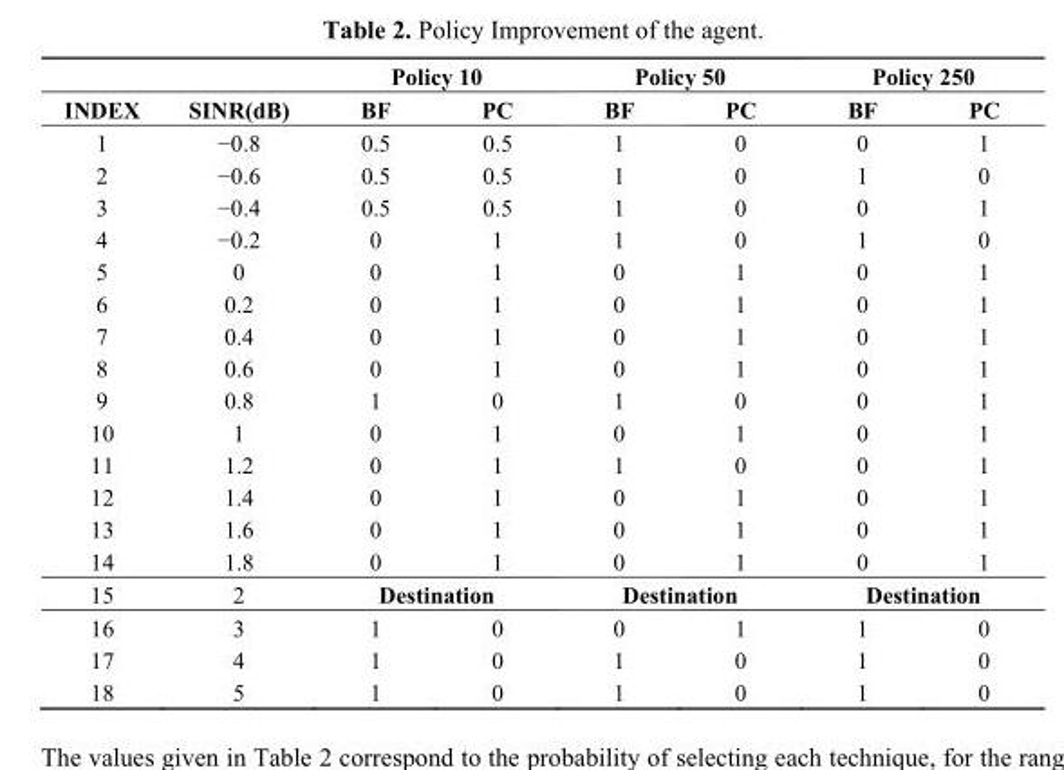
<table><thead><tr><td rowspan="2">INDEX</td><td rowspan="2">SINR(dB)</td><td colspan="2">Policy 10</td><td colspan="2">Policy 50</td><td colspan="2">Policy 250</td></tr><tr><td>BF</td><td>PC</td><td>BF</td><td>PC</td><td>BF</td><td>PC</td></tr></thead><tbody><tr><td>1</td><td>−0.8</td><td>0.5</td><td>0.5</td><td>1</td><td>0</td><td>0</td><td>1</td></tr><tr><td>2</td><td>−0.6</td><td>0.5</td><td>0.5</td><td>1</td><td>0</td><td>1</td><td>0</td></tr><tr><td>3</td><td>−0.4</td><td>0.5</td><td>0.5</td><td>1</td><td>0</td><td>0</td><td>1</td></tr><tr><td>4</td><td>−0.2</td><td>0</td><td>1</td><td>1</td><td>0</td><td>1</td><td>0</td></tr><tr><td>5</td><td>0</td><td>0</td><td>1</td><td>0</td><td>1</td><td>0</td><td>1</td></tr><tr><td>6</td><td>0.2</td><td>0</td><td>1</td><td>0</td><td>1</td><td>0</td><td>1</td></tr><tr><td>7</td><td>0.4</td><td>0</td><td>1</td><td>0</td><td>1</td><td>0</td><td>1</td></tr><tr><td>8</td><td>0.6</td><td>0</td><td>1</td><td>0</td><td>1</td><td>0</td><td>1</td></tr><tr><td>9</td><td>0.8</td><td>1</td><td>0</td><td>1</td><td>0</td><td>0</td><td>1</td></tr><tr><td>10</td><td>1</td><td>0</td><td>1</td><td>0</td><td>1</td><td>0</td><td>1</td></tr><tr><td>11</td><td>1.2</td><td>0</td><td>1</td><td>1</td><td>0</td><td>0</td><td>1</td></tr><tr><td>12</td><td>1.4</td><td>0</td><td>1</td><td>0</td><td>1</td><td>0</td><td>1</td></tr><tr><td>13</td><td>1.6</td><td>0</td><td>1</td><td>0</td><td>1</td><td>0</td><td>1</td></tr><tr><td>14</td><td>1.8</td><td>0</td><td>1</td><td>0</td><td>1</td><td>0</td><td>1</td></tr><tr><td>15</td><td>2</td><td colspan="2">Destination</td><td colspan="2">Destination</td><td colspan="2">Destination</td></tr><tr><td>16</td><td>3</td><td>1</td><td>0</td><td>0</td><td>1</td><td>1</td><td>0</td></tr><tr><td>17</td><td>4</td><td>1</td><td>0</td><td>1</td><td>0</td><td>1</td><td>0</td></tr><tr><td>18</td><td>5</td><td>1</td><td>0</td><td>1</td><td>0</td><td>1</td><td>0</td></tr></tbody></table>